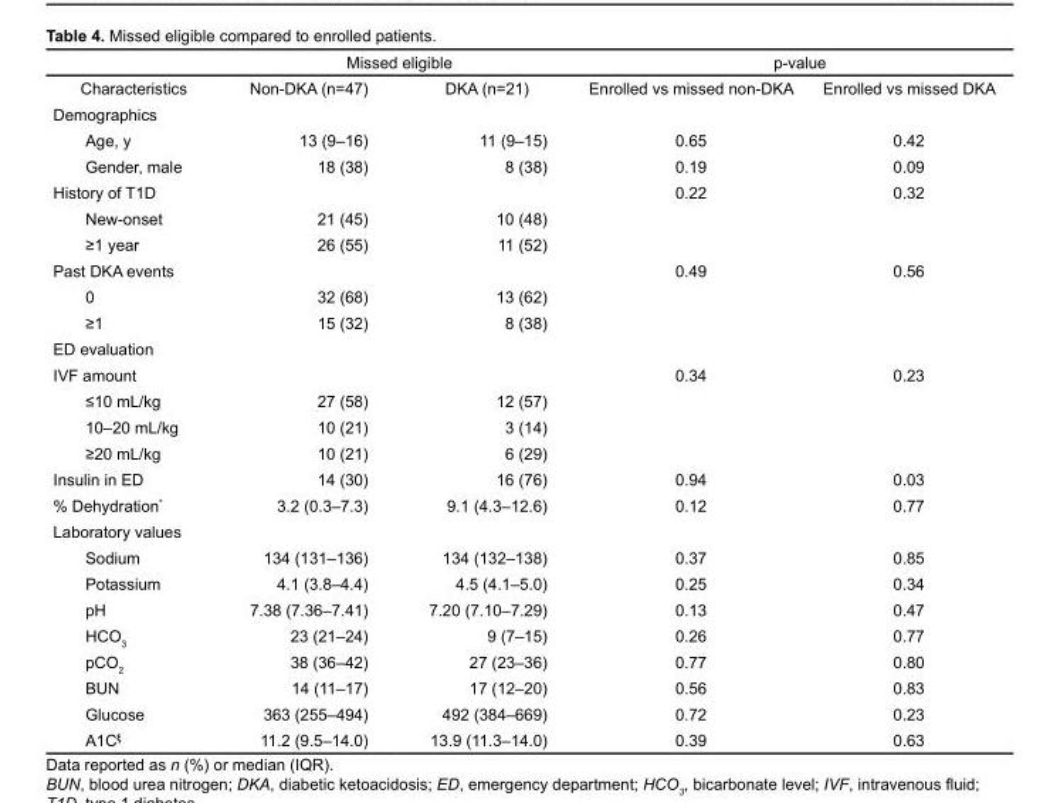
<table><thead><tr><td rowspan="2">Characteristics</td><td colspan="2">Missed eligible</td><td colspan="2">p-value</td></tr><tr><td>Non-DKA (n=47)</td><td>DKA (n=21)</td><td>Enrolled vs missed non-DKA</td><td>Enrolled vs missed DKA</td></tr></thead><tbody><tr><td colspan="5">Demographics</td></tr><tr><td>Age, y</td><td>13 (9–16)</td><td>11 (9–15)</td><td>0.65</td><td>0.42</td></tr><tr><td>Gender, male</td><td>18 (38)</td><td>8 (38)</td><td>0.19</td><td>0.09</td></tr><tr><td>History of T1D</td><td></td><td></td><td>0.22</td><td>0.32</td></tr><tr><td>New-onset</td><td>21 (45)</td><td>10 (48)</td><td></td><td></td></tr><tr><td>≥1 year</td><td>26 (55)</td><td>11 (52)</td><td></td><td></td></tr><tr><td>Past DKA events</td><td></td><td></td><td>0.49</td><td>0.56</td></tr><tr><td>0</td><td>32 (68)</td><td>13 (62)</td><td></td><td></td></tr><tr><td>≥1</td><td>15 (32)</td><td>8 (38)</td><td></td><td></td></tr><tr><td colspan="5">ED evaluation</td></tr><tr><td>IVF amount</td><td></td><td></td><td>0.34</td><td>0.23</td></tr><tr><td>≤10 mL/kg</td><td>27 (58)</td><td>12 (57)</td><td></td><td></td></tr><tr><td>10–20 mL/kg</td><td>10 (21)</td><td>3 (14)</td><td></td><td></td></tr><tr><td>≥20 mL/kg</td><td>10 (21)</td><td>6 (29)</td><td></td><td></td></tr><tr><td>Insulin in ED</td><td>14 (30)</td><td>16 (76)</td><td>0.94</td><td>0.03</td></tr><tr><td>% Dehydration*</td><td>3.2 (0.3–7.3)</td><td>9.1 (4.3–12.6)</td><td>0.12</td><td>0.77</td></tr><tr><td colspan="5">Laboratory values</td></tr><tr><td>Sodium</td><td>134 (131–136)</td><td>134 (132–138)</td><td>0.37</td><td>0.85</td></tr><tr><td>Potassium</td><td>4.1 (3.8–4.4)</td><td>4.5 (4.1–5.0)</td><td>0.25</td><td>0.34</td></tr><tr><td>pH</td><td>7.38 (7.36–7.41)</td><td>7.20 (7.10–7.29)</td><td>0.13</td><td>0.47</td></tr><tr><td>HCO<sub>3</sub></td><td>23 (21–24)</td><td>9 (7–15)</td><td>0.26</td><td>0.77</td></tr><tr><td>pCO<sub>2</sub></td><td>38 (36–42)</td><td>27 (23–36)</td><td>0.77</td><td>0.80</td></tr><tr><td>BUN</td><td>14 (11–17)</td><td>17 (12–20)</td><td>0.56</td><td>0.83</td></tr><tr><td>Glucose</td><td>363 (255–494)</td><td>492 (384–669)</td><td>0.72</td><td>0.23</td></tr><tr><td>A1Cξ</td><td>11.2 (9.5–14.0)</td><td>13.9 (11.3–14.0)</td><td>0.39</td><td>0.63</td></tr></tbody></table>